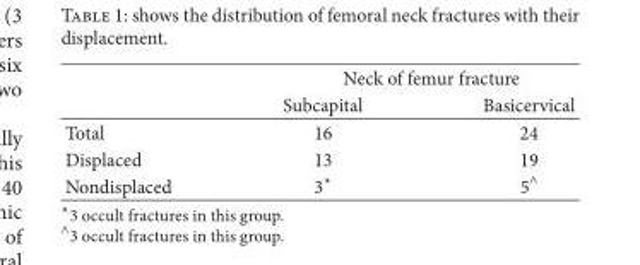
<table><thead><tr><td rowspan="2"></td><td colspan="2">Neck of femur fracture</td></tr><tr><td>Subcapital</td><td>Basicervical</td></tr></thead><tbody><tr><td>Total</td><td>16</td><td>24</td></tr><tr><td>Displaced</td><td>13</td><td>19</td></tr><tr><td>Nondisplaced</td><td>3∗</td><td>5<sup>∧</sup></td></tr></tbody></table>